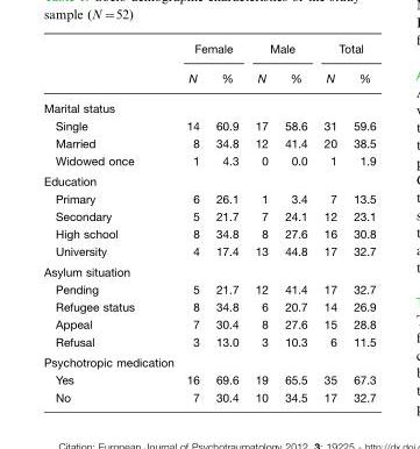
<table><thead><tr><td rowspan="2"></td><td colspan="2">Female</td><td colspan="2">Male</td><td colspan="2">Total</td></tr><tr><td>N</td><td>%</td><td>N</td><td>%</td><td>N</td><td>%</td></tr></thead><tbody><tr><td colspan="7">Marital status</td></tr><tr><td>Single</td><td>14</td><td>60.9</td><td>17</td><td>58.6</td><td>31</td><td>59.6</td></tr><tr><td>Married</td><td>8</td><td>34.8</td><td>12</td><td>41.4</td><td>20</td><td>38.5</td></tr><tr><td>Widowed once</td><td>1</td><td>4.3</td><td>0</td><td>0.0</td><td>1</td><td>1.9</td></tr><tr><td colspan="7">Education</td></tr><tr><td>Primary</td><td>6</td><td>26.1</td><td>1</td><td>3.4</td><td>7</td><td>13.5</td></tr><tr><td>Secondary</td><td>5</td><td>21.7</td><td>7</td><td>24.1</td><td>12</td><td>23.1</td></tr><tr><td>High school</td><td>8</td><td>34.8</td><td>8</td><td>27.6</td><td>16</td><td>30.8</td></tr><tr><td>University</td><td>4</td><td>17.4</td><td>13</td><td>44.8</td><td>17</td><td>32.7</td></tr><tr><td colspan="7">Asylum situation</td></tr><tr><td>Pending</td><td>5</td><td>21.7</td><td>12</td><td>41.4</td><td>17</td><td>32.7</td></tr><tr><td>Refugee status</td><td>8</td><td>34.8</td><td>6</td><td>20.7</td><td>14</td><td>26.9</td></tr><tr><td>Appeal</td><td>7</td><td>30.4</td><td>8</td><td>27.6</td><td>15</td><td>28.8</td></tr><tr><td>Refusal</td><td>3</td><td>13.0</td><td>3</td><td>10.3</td><td>6</td><td>11.5</td></tr><tr><td colspan="7">Psychotropic medication</td></tr><tr><td>Yes</td><td>16</td><td>69.6</td><td>19</td><td>65.5</td><td>35</td><td>67.3</td></tr><tr><td>No</td><td>7</td><td>30.4</td><td>10</td><td>34.5</td><td>17</td><td>32.7</td></tr></tbody></table>